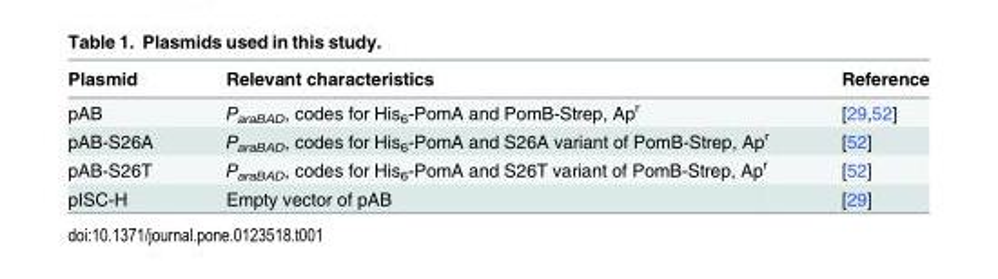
<table><thead><tr><td>Plasmid</td><td>Relevant characteristics</td><td>Reference</td></tr></thead><tbody><tr><td>pAB</td><td>P<sub>araBAD</sub>, codes for His<sub>6</sub>-PomA and PomB-Strep, Ap<sup>r</sup></td><td>[29,52]</td></tr><tr><td>pAB-S26A</td><td>P<sub>araBAD</sub>, codes for His<sub>6</sub>-PomA and S26A variant of PomB-Strep, Ap<sup>r</sup></td><td>[52]</td></tr><tr><td>pAB-S26T</td><td>P<sub>araBAD</sub>, codes for His<sub>6</sub>-PomA and S26T variant of PomB-Strep, Ap<sup>r</sup></td><td>[52]</td></tr><tr><td>pISC-H</td><td>Empty vector of pAB</td><td>[29]</td></tr></tbody></table>